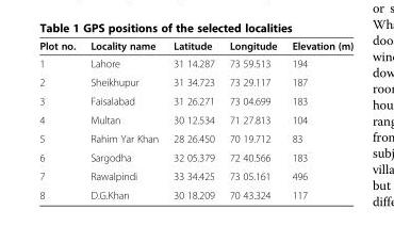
<table><thead><tr><td>Plot no.</td><td>Locality name</td><td>Latitude</td><td>Longitude</td><td>Elevation (m)</td></tr></thead><tbody><tr><td>1</td><td>Lahore</td><td>31 14.287</td><td>73 59.513</td><td>194</td></tr><tr><td>2</td><td>Sheikhupur</td><td>31 34.723</td><td>73 29.117</td><td>187</td></tr><tr><td>3</td><td>Faisalabad</td><td>31 26.271</td><td>73 04.699</td><td>183</td></tr><tr><td>4</td><td>Multan</td><td>30 12.534</td><td>71 27.813</td><td>104</td></tr><tr><td>5</td><td>Rahim Yar Khan</td><td>28 26.450</td><td>70 19.712</td><td>83</td></tr><tr><td>6</td><td>Sargodha</td><td>32 05.379</td><td>72 40.566</td><td>183</td></tr><tr><td>7</td><td>Rawalpindi</td><td>33 34.425</td><td>73 05.161</td><td>496</td></tr><tr><td>8</td><td>D.G.Khan</td><td>30 18.209</td><td>70 43.324</td><td>117</td></tr></tbody></table>